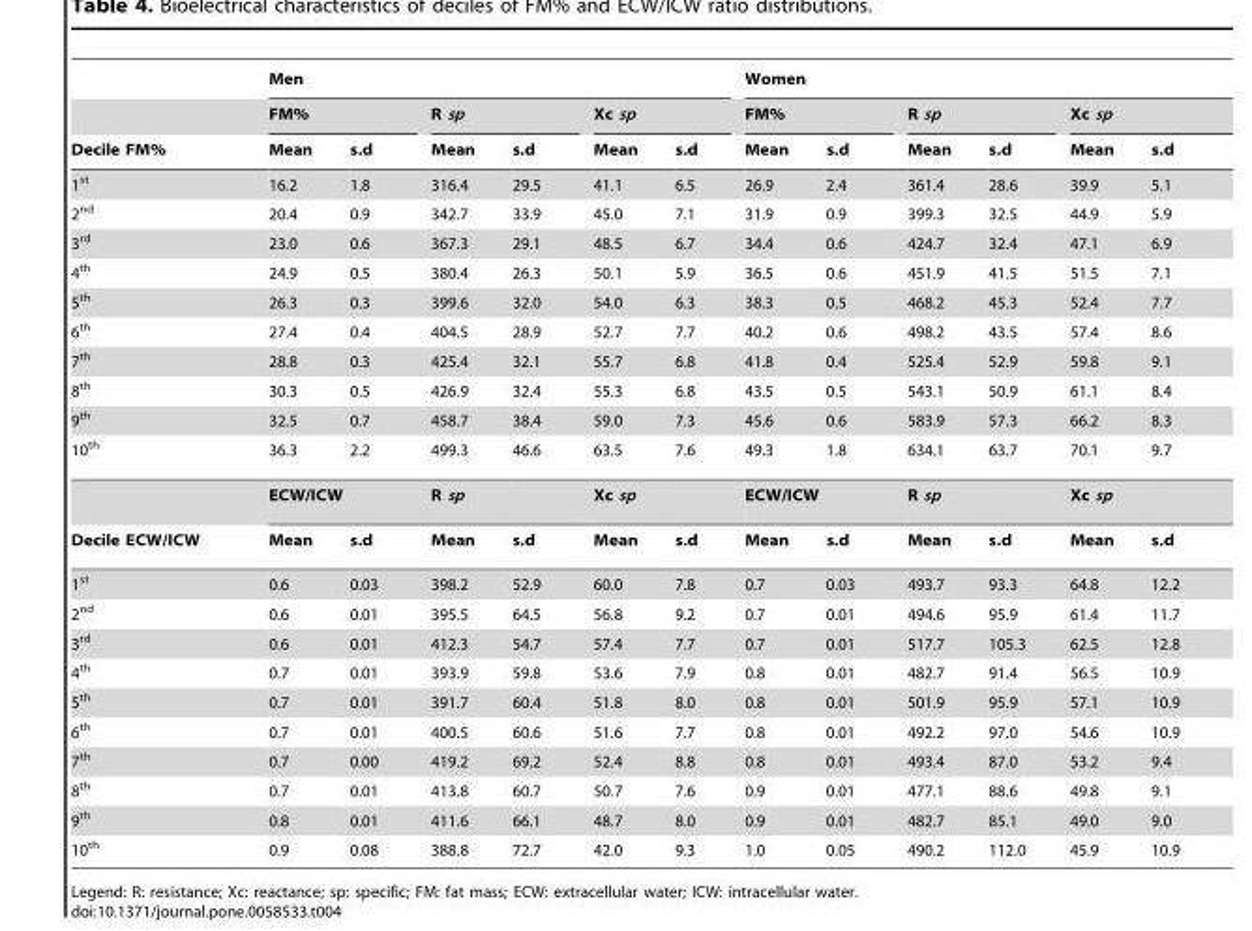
<table><thead><tr><td rowspan="3">Decile FM%</td><td colspan="6">Men</td><td colspan="6">Women</td></tr><tr><td colspan="2">FM%</td><td colspan="2">R sp</td><td colspan="2">Xc sp</td><td colspan="2">FM%</td><td colspan="2">R sp</td><td colspan="2">Xc sp</td></tr><tr><td>Mean</td><td>s.d</td><td>Mean</td><td>s.d</td><td>Mean</td><td>s.d</td><td>Mean</td><td>s.d</td><td>Mean</td><td>s.d</td><td>Mean</td><td>s.d</td></tr></thead><tbody><tr><td>1<sup>st</sup></td><td>16.2</td><td>1.8</td><td>316.4</td><td>29.5</td><td>41.1</td><td>6.5</td><td>26.9</td><td>2.4</td><td>361.4</td><td>28.6</td><td>39.9</td><td>5.1</td></tr><tr><td>2<sup>nd</sup></td><td>20.4</td><td>0.9</td><td>342.7</td><td>33.9</td><td>45.0</td><td>7.1</td><td>31.9</td><td>0.9</td><td>399.3</td><td>32.5</td><td>44.9</td><td>5.9</td></tr><tr><td>3<sup>rd</sup></td><td>23.0</td><td>0.6</td><td>367.3</td><td>29.1</td><td>48.5</td><td>6.7</td><td>34.4</td><td>0.6</td><td>424.7</td><td>32.4</td><td>47.1</td><td>6.9</td></tr><tr><td>4<sup>th</sup></td><td>24.9</td><td>0.5</td><td>380.4</td><td>26.3</td><td>50.1</td><td>5.9</td><td>36.5</td><td>0.6</td><td>451.9</td><td>41.5</td><td>51.5</td><td>7.1</td></tr><tr><td>5<sup>th</sup></td><td>26.3</td><td>0.3</td><td>399.6</td><td>32.0</td><td>54.0</td><td>6.3</td><td>38.3</td><td>0.5</td><td>468.2</td><td>45.3</td><td>52.4</td><td>7.7</td></tr><tr><td>6<sup>th</sup></td><td>27.4</td><td>0.4</td><td>404.5</td><td>28.9</td><td>52.7</td><td>7.7</td><td>40.2</td><td>0.6</td><td>498.2</td><td>43.5</td><td>57.4</td><td>8.6</td></tr><tr><td>7<sup>th</sup></td><td>28.8</td><td>0.3</td><td>425.4</td><td>32.1</td><td>55.7</td><td>6.8</td><td>41.8</td><td>0.4</td><td>525.4</td><td>52.9</td><td>59.8</td><td>9.1</td></tr><tr><td>8<sup>th</sup></td><td>30.3</td><td>0.5</td><td>426.9</td><td>32.4</td><td>55.3</td><td>6.8</td><td>43.5</td><td>0.5</td><td>543.1</td><td>50.9</td><td>61.1</td><td>8.4</td></tr><tr><td>9<sup>th</sup></td><td>32.5</td><td>0.7</td><td>458.7</td><td>38.4</td><td>59.0</td><td>7.3</td><td>45.6</td><td>0.6</td><td>583.9</td><td>57.3</td><td>66.2</td><td>8.3</td></tr><tr><td rowspan="2">10<sup>th</sup></td><td>36.3</td><td>2.2</td><td>499.3</td><td>46.6</td><td>63.5</td><td>7.6</td><td>49.3</td><td>1.8</td><td>634.1</td><td>63.7</td><td>70.1</td><td>9.7</td></tr><tr><td colspan="2">ECW/ICW</td><td colspan="2">R sp</td><td colspan="2">Xc sp</td><td colspan="2">ECW/ICW</td><td colspan="2">R sp</td><td colspan="2">Xc sp</td></tr><tr><td>Decile ECW/ICW</td><td>Mean</td><td>s.d</td><td>Mean</td><td>s.d</td><td>Mean</td><td>s.d</td><td>Mean</td><td>s.d</td><td>Mean</td><td>s.d</td><td>Mean</td><td>s.d</td></tr><tr><td>1<sup>st</sup></td><td>0.6</td><td>0.03</td><td>398.2</td><td>52.9</td><td>60.0</td><td>7.8</td><td>0.7</td><td>0.03</td><td>493.7</td><td>93.3</td><td>64.8</td><td>12.2</td></tr><tr><td>2<sup>nd</sup></td><td>0.6</td><td>0.01</td><td>395.5</td><td>64.5</td><td>56.8</td><td>9.2</td><td>0.7</td><td>0.01</td><td>494.6</td><td>95.9</td><td>61.4</td><td>11.7</td></tr><tr><td>3<sup>rd</sup></td><td>0.6</td><td>0.01</td><td>412.3</td><td>54.7</td><td>57.4</td><td>7.7</td><td>0.7</td><td>0.01</td><td>517.7</td><td>105.3</td><td>62.5</td><td>12.8</td></tr><tr><td>4<sup>th</sup></td><td>0.7</td><td>0.01</td><td>393.9</td><td>59.8</td><td>53.6</td><td>7.9</td><td>0.8</td><td>0.01</td><td>482.7</td><td>91.4</td><td>56.5</td><td>10.9</td></tr><tr><td>5<sup>th</sup></td><td>0.7</td><td>0.01</td><td>391.7</td><td>60.4</td><td>51.8</td><td>8.0</td><td>0.8</td><td>0.01</td><td>501.9</td><td>95.9</td><td>57.1</td><td>10.9</td></tr><tr><td>6<sup>th</sup></td><td>0.7</td><td>0.01</td><td>400.5</td><td>60.6</td><td>51.6</td><td>7.7</td><td>0.8</td><td>0.01</td><td>492.2</td><td>97.0</td><td>54.6</td><td>10.9</td></tr><tr><td>7<sup>th</sup></td><td>0.7</td><td>0.00</td><td>419.2</td><td>69.2</td><td>52.4</td><td>8.8</td><td>0.8</td><td>0.01</td><td>493.4</td><td>87.0</td><td>53.2</td><td>9.4</td></tr><tr><td>8<sup>th</sup></td><td>0.7</td><td>0.01</td><td>413.8</td><td>60.7</td><td>50.7</td><td>7.6</td><td>0.9</td><td>0.01</td><td>477.1</td><td>88.6</td><td>49.8</td><td>9.1</td></tr><tr><td>9<sup>th</sup></td><td>0.8</td><td>0.01</td><td>411.6</td><td>66.1</td><td>48.7</td><td>8.0</td><td>0.9</td><td>0.01</td><td>482.7</td><td>85.1</td><td>49.0</td><td>9.0</td></tr><tr><td>10<sup>th</sup></td><td>0.9</td><td>0.08</td><td>388.8</td><td>72.7</td><td>42.0</td><td>9.3</td><td>1.0</td><td>0.05</td><td>490.2</td><td>112.0</td><td>45.9</td><td>10.9</td></tr></tbody></table>